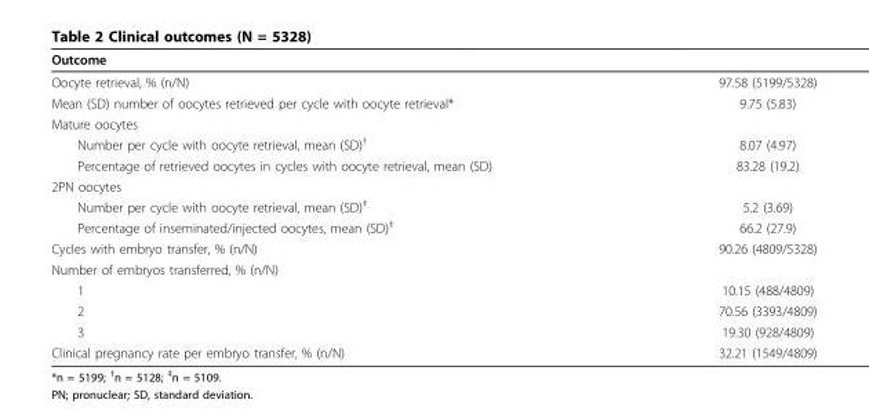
<table><thead><tr><td>Outcome</td><td></td></tr></thead><tbody><tr><td>Oocyte retrieval, % (n/N)</td><td>97.58 (5199/5328)</td></tr><tr><td>Mean (SD) number of oocytes retrieved per cycle with oocyte retrieval*</td><td>9.75 (5.83)</td></tr><tr><td colspan="2">Mature oocytes</td></tr><tr><td>Number per cycle with oocyte retrieval, mean (SD)<sup>†</sup></td><td>8.07 (4.97)</td></tr><tr><td>Percentage of retrieved oocytes in cycles with oocyte retrieval, mean (SD)</td><td>83.28 (19.2)</td></tr><tr><td colspan="2">2PN oocytes</td></tr><tr><td>Number per cycle with oocyte retrieval, mean (SD)<sup>‡</sup></td><td>5.2 (3.69)</td></tr><tr><td>Percentage of inseminated/injected oocytes, mean (SD)<sup>‡</sup></td><td>66.2 (27.9)</td></tr><tr><td>Cycles with embryo transfer, % (n/N)</td><td>90.26 (4809/5328)</td></tr><tr><td colspan="2">Number of embryos transferred, % (n/N)</td></tr><tr><td>1</td><td>10.15 (488/4809)</td></tr><tr><td>2</td><td>70.56 (3393/4809)</td></tr><tr><td>3</td><td>19.30 (928/4809)</td></tr><tr><td>Clinical pregnancy rate per embryo transfer, % (n/N)</td><td>32.21 (1549/4809)</td></tr></tbody></table>